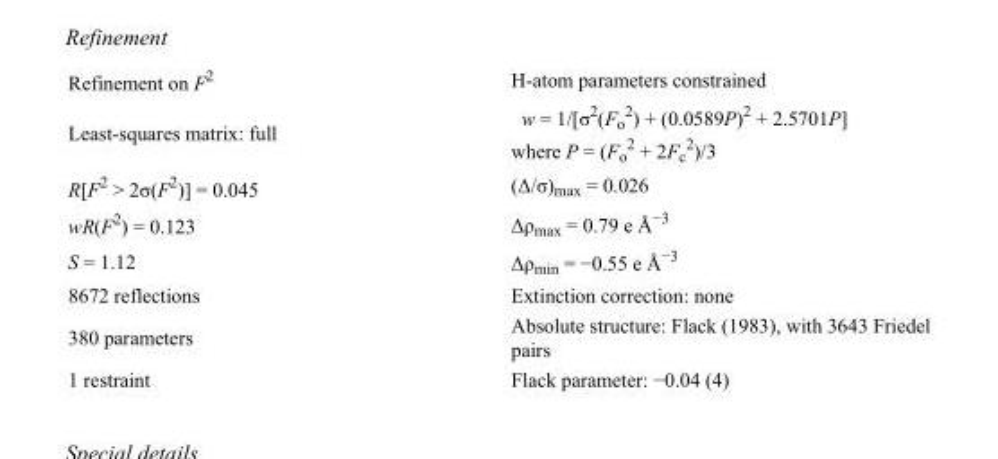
<table><tbody><tr><td>Refinement on F<sup>2</sup></td><td>H-atom parameters constrained</td></tr><tr><td>Least-squares matrix: full</td><td>w = 1/[σ<sup>2</sup>(F<sub>o</sub> <sup>2</sup>) + (0.0589P)<sup>2</sup> + 2.5701P] where P = (F<sub>o</sub> <sup>2</sup> + 2F<sub>c</sub> <sup>2</sup>)/3</td></tr><tr><td>R[F<sup>2</sup> &gt; 2σ(F<sup>2</sup>)] = 0.045</td><td>(Δ/σ)<sub>max</sub> = 0.026</td></tr><tr><td>wR(F<sup>2</sup>) = 0.123</td><td>Δρ<sub>max</sub> = 0.79 e Å<sup>−3</sup></td></tr><tr><td>S = 1.12</td><td>Δρ<sub>min</sub> = −0.55 e Å<sup>−3</sup></td></tr><tr><td>8672 reflections</td><td>Extinction correction: none</td></tr><tr><td>380 parameters</td><td>Absolute structure: Flack (1983), with 3643 Friedel pairs</td></tr><tr><td>1 restraint</td><td>Flack parameter: −0.04 (4)</td></tr></tbody></table>